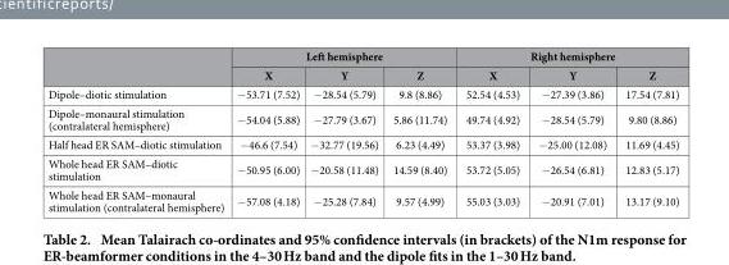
<table><thead><tr><td rowspan="2"></td><td colspan="3">Left hemisphere</td><td colspan="3">Right hemisphere</td></tr><tr><td>X</td><td>Y</td><td>Z</td><td>X</td><td>Y</td><td>Z</td></tr></thead><tbody><tr><td>Dipole–diotic stimulation</td><td>− 53.71 (7.52)</td><td>− 28.54 (5.79)</td><td>9.8 (8.86)</td><td>52.54 (4.53)</td><td>− 27.39 (3.86)</td><td>17.54 (7.81)</td></tr><tr><td>Dipole–monaural stimulation (contralateral hemisphere)</td><td>− 54.04 (5.88)</td><td>− 27.79 (3.67)</td><td>5.86 (11.74)</td><td>49.74 (4.92)</td><td>− 28.54 (5.79)</td><td>9.80 (8.86)</td></tr><tr><td>Half head ER SAM–diotic stimulation</td><td>− 46.6 (7.54)</td><td>− 32.77 (19.56)</td><td>6.23 (4.49)</td><td>53.37 (3.98)</td><td>− 25.00 (12.08)</td><td>11.69 (4.45)</td></tr><tr><td>Whole head ER SAM–diotic stimulation</td><td>− 50.95 (6.00)</td><td>− 20.58 (11.48)</td><td>14.59 (8.40)</td><td>53.72 (5.05)</td><td>− 26.54 (6.81)</td><td>12.83 (5.17)</td></tr><tr><td>Whole head ER SAM–monaural stimulation (contralateral hemisphere)</td><td>− 57.08 (4.18)</td><td>− 25.28 (7.84)</td><td>9.57 (4.99)</td><td>55.03 (3.03)</td><td>− 20.91 (7.01)</td><td>13.17 (9.10)</td></tr></tbody></table>